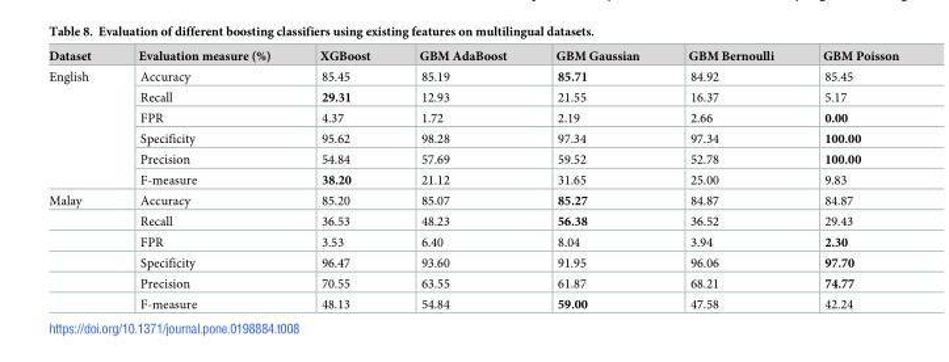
<table><thead><tr><td>Dataset</td><td>Evaluation measure (%)</td><td>XGBoost</td><td>GBM AdaBoost</td><td>GBM Gaussian</td><td>GBM Bernoulli</td><td>GBM Poisson</td></tr></thead><tbody><tr><td rowspan="6">English</td><td>Accuracy</td><td>85.45</td><td>85.19</td><td>85.71</td><td>84.92</td><td>85.45</td></tr><tr><td>Recall</td><td>29.31</td><td>12.93</td><td>21.55</td><td>16.37</td><td>5.17</td></tr><tr><td>FPR</td><td>4.37</td><td>1.72</td><td>2.19</td><td>2.66</td><td>0.00</td></tr><tr><td>Specificity</td><td>95.62</td><td>98.28</td><td>97.34</td><td>97.34</td><td>100.00</td></tr><tr><td>Precision</td><td>54.84</td><td>57.69</td><td>59.52</td><td>52.78</td><td>100.00</td></tr><tr><td>F-measure</td><td>38.20</td><td>21.12</td><td>31.65</td><td>25.00</td><td>9.83</td></tr><tr><td rowspan="6">Malay</td><td>Accuracy</td><td>85.20</td><td>85.07</td><td>85.27</td><td>84.87</td><td>84.87</td></tr><tr><td>Recall</td><td>36.53</td><td>48.23</td><td>56.38</td><td>36.52</td><td>29.43</td></tr><tr><td>FPR</td><td>3.53</td><td>6.40</td><td>8.04</td><td>3.94</td><td>2.30</td></tr><tr><td>Specificity</td><td>96.47</td><td>93.60</td><td>91.95</td><td>96.06</td><td>97.70</td></tr><tr><td>Precision</td><td>70.55</td><td>63.55</td><td>61.87</td><td>68.21</td><td>74.77</td></tr><tr><td>F-measure</td><td>48.13</td><td>54.84</td><td>59.00</td><td>47.58</td><td>42.24</td></tr></tbody></table>